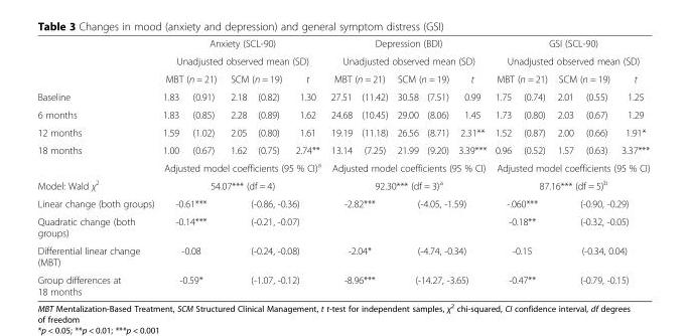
<table><thead><tr><td rowspan="4">Baseline</td><td rowspan="2" colspan="5">Anxiety (SCL-90) Unadjusted observed mean (SD)</td><td rowspan="2" colspan="5">Depression (BDI) Unadjusted observed mean (SD)</td><td rowspan="2" colspan="5">GSI (SCL-90) Unadjusted observed mean (SD)</td></tr><tr></tr><tr><td colspan="2">MBT (n = 21)</td><td colspan="2">SCM (n = 19)</td><td rowspan="2">t 1.30</td><td colspan="2">MBT (n = 21)</td><td colspan="2">SCM (n = 19)</td><td rowspan="2">t 0.99</td><td colspan="2">MBT (n = 21)</td><td colspan="2">SCM (n = 19)</td><td rowspan="2">t 1.25</td></tr><tr><td>1.83</td><td>(0.91)</td><td>2.18</td><td>(0.82)</td><td>27.51</td><td>(11.42)</td><td>30.58</td><td>(7.51)</td><td>1.75</td><td>(0.74)</td><td>2.01</td><td>(0.55)</td></tr></thead><tbody><tr><td>6 months</td><td>1.83</td><td>(0.85)</td><td>2.28</td><td>(0.89)</td><td>1.62</td><td>24.68</td><td>(10.45)</td><td>29.00</td><td>(8.06)</td><td>1.45</td><td>1.73</td><td>(0.80)</td><td>2.03</td><td>(0.67)</td><td>1.29</td></tr><tr><td>12 months</td><td>1.59</td><td>(1.02)</td><td>2.05</td><td>(0.80)</td><td>1.61</td><td>19.19</td><td>(11.18)</td><td>26.56</td><td>(8.71)</td><td>2.31**</td><td>1.52</td><td>(0.87)</td><td>2.00</td><td>(0.66)</td><td>1.91*</td></tr><tr><td rowspan="2">18 months</td><td>1.00</td><td>(0.67)</td><td>1.62</td><td>(0.75)</td><td>2.74**</td><td>13.14</td><td>(7.25)</td><td>21.99</td><td>(9.20)</td><td>3.39***</td><td>0.96</td><td>(0.52)</td><td>1.57</td><td>(0.63)</td><td>3.37***</td></tr><tr><td colspan="5">Adjusted model coefficients (95 % CI)<sup>a</sup></td><td colspan="5">Adjusted model coefficients (95 % CI)</td><td colspan="5">Adjusted model coefficients (95 % CI)</td></tr><tr><td>Model: Wald χ<sup>2</sup></td><td colspan="5">54.07*** (df = 4)</td><td colspan="5">92.30*** (df = 3)<sup>a</sup></td><td colspan="5">87.16*** (df = 5)<sup>b</sup></td></tr><tr><td>Linear change (both groups)</td><td colspan="2">-0.61***</td><td colspan="3">(-0.86, -0.36)</td><td colspan="2">-2.82***</td><td colspan="3">(-4.05, -1.59)</td><td colspan="2">-.060***</td><td colspan="3">(-0.90, -0.29)</td></tr><tr><td>Quadratic change (both groups)</td><td colspan="2">-0.14***</td><td colspan="3">(-0.21, -0.07)</td><td colspan="2"></td><td colspan="3"></td><td colspan="2">-0.18**</td><td colspan="3">(-0.32, -0.05)</td></tr><tr><td>Differential linear change (MBT)</td><td colspan="2">-0.08</td><td colspan="3">(-0.24, -0.08)</td><td colspan="2">-2.04*</td><td colspan="3">(-4.74, -0.34)</td><td colspan="2">-0.15</td><td colspan="3">(-0.34, 0.04)</td></tr><tr><td>Group differences at 18 months</td><td colspan="2">-0.59*</td><td colspan="3">(-1.07, -0.12)</td><td colspan="2">-8.96***</td><td colspan="3">(-14.27, -3.65)</td><td colspan="2">-0.47**</td><td colspan="3">(-0.79, -0.15)</td></tr></tbody></table>